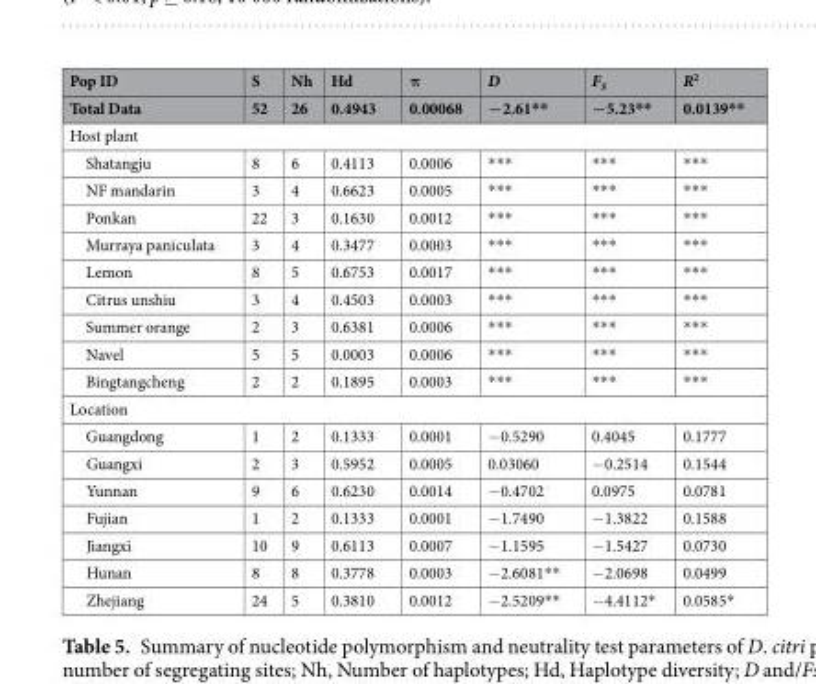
<table><thead><tr><td rowspan="2">Pop ID Total Data</td><td rowspan="2">S 52</td><td rowspan="2">Nh 26</td><td rowspan="2">Hd 0.4943</td><td rowspan="2">π 0.00068</td><td rowspan="2">D −2.61**</td><td rowspan="2">F<sub>S</sub> −5.23**</td><td rowspan="2">R<sup>2</sup> 0.0139**</td></tr><tr></tr></thead><tbody><tr><td colspan="8">Host plant</td></tr><tr><td>Shatangju</td><td>8</td><td>6</td><td>0.4113</td><td>0.0006</td><td>***</td><td>***</td><td>***</td></tr><tr><td>NF mandarin</td><td>3</td><td>4</td><td>0.6623</td><td>0.0005</td><td>***</td><td>***</td><td>***</td></tr><tr><td>Ponkan</td><td>22</td><td>3</td><td>0.1630</td><td>0.0012</td><td>***</td><td>***</td><td>***</td></tr><tr><td>Murraya paniculata</td><td>3</td><td>4</td><td>0.3477</td><td>0.0003</td><td>***</td><td>***</td><td>***</td></tr><tr><td>Lemon</td><td>8</td><td>5</td><td>0.6753</td><td>0.0017</td><td>***</td><td>***</td><td>***</td></tr><tr><td>Citrus unshiu</td><td>3</td><td>4</td><td>0.4503</td><td>0.0003</td><td>***</td><td>***</td><td>***</td></tr><tr><td>Summer orange</td><td>2</td><td>3</td><td>0.6381</td><td>0.0006</td><td>***</td><td>***</td><td>***</td></tr><tr><td>Navel</td><td>5</td><td>5</td><td>0.0003</td><td>0.0006</td><td>***</td><td>***</td><td>***</td></tr><tr><td>Bingtangcheng</td><td>2</td><td>2</td><td>0.1895</td><td>0.0003</td><td>***</td><td>***</td><td>***</td></tr><tr><td colspan="8">Location</td></tr><tr><td>Guangdong</td><td>1</td><td>2</td><td>0.1333</td><td>0.0001</td><td>−0.5290</td><td>0.4045</td><td>0.1777</td></tr><tr><td>Guangxi</td><td>2</td><td>3</td><td>0.5952</td><td>0.0005</td><td>0.03060</td><td>−0.2514</td><td>0.1544</td></tr><tr><td>Yunnan</td><td>9</td><td>6</td><td>0.6230</td><td>0.0014</td><td>−0.4702</td><td>0.0975</td><td>0.0781</td></tr><tr><td>Fujian</td><td>1</td><td>2</td><td>0.1333</td><td>0.0001</td><td>−1.7490</td><td>−1.3822</td><td>0.1588</td></tr><tr><td>Jiangxi</td><td>10</td><td>9</td><td>0.6113</td><td>0.0007</td><td>−1.1595</td><td>−1.5427</td><td>0.0730</td></tr><tr><td>Hunan</td><td>8</td><td>8</td><td>0.3778</td><td>0.0003</td><td>−2.6081**</td><td>−2.0698</td><td>0.0499</td></tr><tr><td>Zhejiang</td><td>24</td><td>5</td><td>0.3810</td><td>0.0012</td><td>−2.5209**</td><td>−4.4112*</td><td>0.0585*</td></tr></tbody></table>